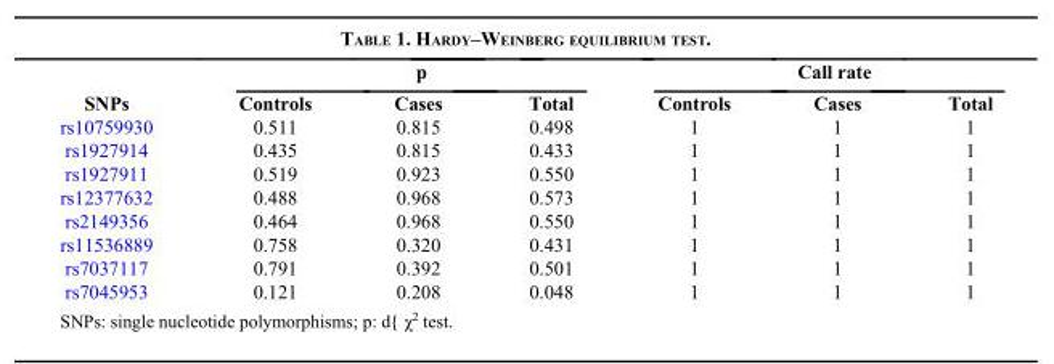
<table><thead><tr><td rowspan="2">SNPs</td><td colspan="3">p</td><td colspan="3">Call rate</td></tr><tr><td>Controls</td><td>Cases</td><td>Total</td><td>Controls</td><td>Cases</td><td>Total</td></tr></thead><tbody><tr><td>rs10759930</td><td>0.511</td><td>0.815</td><td>0.498</td><td>1</td><td>1</td><td>1</td></tr><tr><td>rs1927914</td><td>0.435</td><td>0.815</td><td>0.433</td><td>1</td><td>1</td><td>1</td></tr><tr><td>rs1927911</td><td>0.519</td><td>0.923</td><td>0.550</td><td>1</td><td>1</td><td>1</td></tr><tr><td>rs12377632</td><td>0.488</td><td>0.968</td><td>0.573</td><td>1</td><td>1</td><td>1</td></tr><tr><td>rs2149356</td><td>0.464</td><td>0.968</td><td>0.550</td><td>1</td><td>1</td><td>1</td></tr><tr><td>rs11536889</td><td>0.758</td><td>0.320</td><td>0.431</td><td>1</td><td>1</td><td>1</td></tr><tr><td>rs7037117</td><td>0.791</td><td>0.392</td><td>0.501</td><td>1</td><td>1</td><td>1</td></tr><tr><td>rs7045953</td><td>0.121</td><td>0.208</td><td>0.048</td><td>1</td><td>1</td><td>1</td></tr></tbody></table>